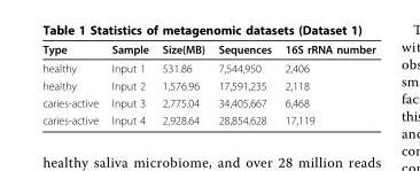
<table><thead><tr><td>Type</td><td>Sample</td><td>Size(MB)</td><td>Sequences</td><td>16S rRNA number</td></tr></thead><tbody><tr><td>healthy</td><td>Input 1</td><td>531.86</td><td>7,544,950</td><td>2,406</td></tr><tr><td>healthy</td><td>Input 2</td><td>1,576.96</td><td>17,591,235</td><td>2,118</td></tr><tr><td>caries-active</td><td>Input 3</td><td>2,775.04</td><td>34,405,667</td><td>6,468</td></tr><tr><td>caries-active</td><td>Input 4</td><td>2,928.64</td><td>28,854,628</td><td>17,119</td></tr></tbody></table>